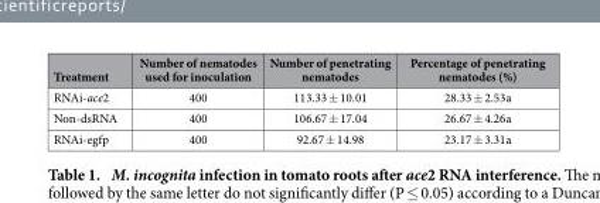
<table><thead><tr><td>Treatment</td><td>Number of nematodes used for inoculation</td><td>Number of penetrating nematodes</td><td>Percentage of penetrating nematodes (%)</td></tr></thead><tbody><tr><td>RNAi-ace2</td><td>400</td><td>113.33 ± 10.01</td><td>28.33 ± 2.53a</td></tr><tr><td>Non-dsRNA</td><td>400</td><td>106.67 ± 17.04</td><td>26.67 ± 4.26a</td></tr><tr><td>RNAi-egfp</td><td>400</td><td>92.67 ± 14.98</td><td>23.17 ± 3.31a</td></tr></tbody></table>